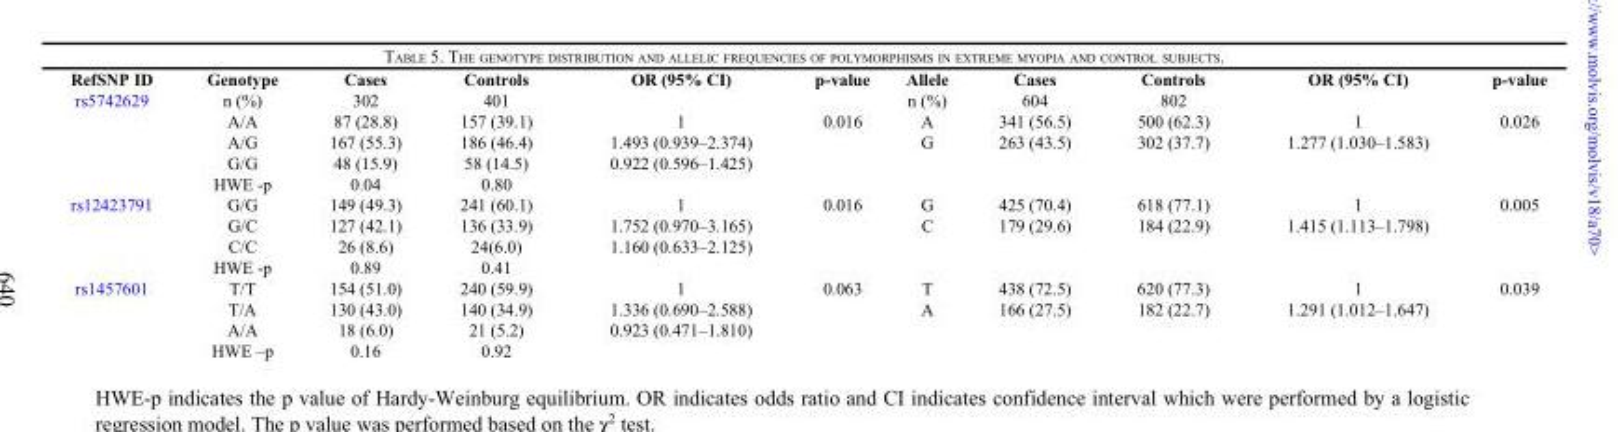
<table><thead><tr><td>RefSNP ID</td><td>Genotype</td><td>Cases</td><td>Controls</td><td>OR (95% CI)</td><td>p-value</td><td>Allele</td><td>Cases</td><td>Controls</td><td>OR (95% CI)</td><td>p-value</td></tr></thead><tbody><tr><td rowspan="5">rs5742629</td><td>n (%)</td><td>302</td><td>401</td><td></td><td></td><td>n (%)</td><td>604</td><td>802</td><td></td><td></td></tr><tr><td>A/A</td><td>87 (28.8)</td><td>157 (39.1)</td><td>1</td><td>0.016</td><td>A</td><td>341 (56.5)</td><td>500 (62.3)</td><td>1</td><td>0.026</td></tr><tr><td>A/G</td><td>167 (55.3)</td><td>186 (46.4)</td><td>1.493 (0.939–2.374)</td><td></td><td>G</td><td>263 (43.5)</td><td>302 (37.7)</td><td>1.277 (1.030–1.583)</td><td></td></tr><tr><td>G/G</td><td>48 (15.9)</td><td>58 (14.5)</td><td>0.922 (0.596–1.425)</td><td></td><td></td><td></td><td></td><td></td><td></td></tr><tr><td>HWE -p</td><td>0.04</td><td>0.80</td><td></td><td></td><td></td><td></td><td></td><td></td><td></td></tr><tr><td rowspan="4">rs12423791</td><td>G/G</td><td>149 (49.3)</td><td>241 (60.1)</td><td>1</td><td>0.016</td><td>G</td><td>425 (70.4)</td><td>618 (77.1)</td><td>1</td><td>0.005</td></tr><tr><td>G/C</td><td>127 (42.1)</td><td>136 (33.9)</td><td>1.752 (0.970–3.165)</td><td></td><td>C</td><td>179 (29.6)</td><td>184 (22.9)</td><td>1.415 (1.113–1.798)</td><td></td></tr><tr><td>C/C</td><td>26 (8.6)</td><td>24(6.0)</td><td>1.160 (0.633–2.125)</td><td></td><td></td><td></td><td></td><td></td><td></td></tr><tr><td>HWE -p</td><td>0.89</td><td>0.41</td><td></td><td></td><td></td><td></td><td></td><td></td><td></td></tr><tr><td rowspan="4">rs1457601</td><td>T/T</td><td>154 (51.0)</td><td>240 (59.9)</td><td>1</td><td>0.063</td><td>T</td><td>438 (72.5)</td><td>620 (77.3)</td><td>1</td><td>0.039</td></tr><tr><td>T/A</td><td>130 (43.0)</td><td>140 (34.9)</td><td>1.336 (0.690–2.588)</td><td></td><td>A</td><td>166 (27.5)</td><td>182 (22.7)</td><td>1.291 (1.012–1.647)</td><td></td></tr><tr><td>A/A</td><td>18 (6.0)</td><td>21 (5.2)</td><td>0.923 (0.471–1.810)</td><td></td><td></td><td></td><td></td><td></td><td></td></tr><tr><td>HWE –p</td><td>0.16</td><td>0.92</td><td></td><td></td><td></td><td></td><td></td><td></td><td></td></tr></tbody></table>